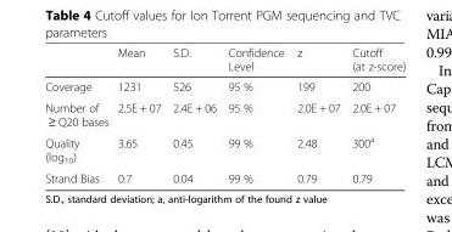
<table><thead><tr><td></td><td>Mean</td><td>S.D.</td><td>Confidence Level</td><td>z</td><td>Cutoff (at z-score)</td></tr></thead><tbody><tr><td>Coverage</td><td>1231</td><td>526</td><td>95 %</td><td>199</td><td>200</td></tr><tr><td>Number of ≥ Q20 bases</td><td>2.5E + 07</td><td>2.4E + 06</td><td>95 %</td><td>2.0E + 07</td><td>2.0E + 07</td></tr><tr><td>Quality (log<sub>10</sub>)</td><td>3.65</td><td>0.45</td><td>99 %</td><td>2.48</td><td>300<sup>a</sup></td></tr><tr><td>Strand Bias</td><td>0.7</td><td>0.04</td><td>99 %</td><td>0.79</td><td>0.79</td></tr></tbody></table>